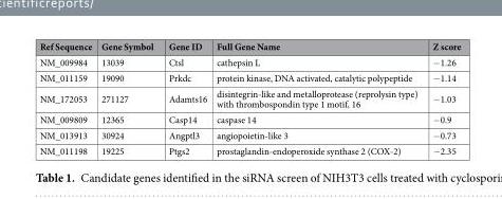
<table><thead><tr><td>Ref Sequence</td><td>Gene Symbol</td><td>Gene ID</td><td>Full Gene Name</td><td>Z score</td></tr></thead><tbody><tr><td>NM_009984</td><td>13039</td><td>Ctsl</td><td>cathepsin L</td><td>−1.26</td></tr><tr><td>NM_011159</td><td>19090</td><td>Prkdc</td><td>protein kinase, DNA activated, catalytic polypeptide</td><td>−1.14</td></tr><tr><td>NM_172053</td><td>271127</td><td>Adamts16</td><td>disintegrin-like and metalloprotease (reprolysin type) with thrombospondin type 1 motif, 16</td><td>−1.03</td></tr><tr><td>NM_009809</td><td>12365</td><td>Casp14</td><td>caspase 14</td><td>−0.9</td></tr><tr><td>NM_013913</td><td>30924</td><td>Angptl3</td><td>angiopoietin-like 3</td><td>−0.73</td></tr><tr><td>NM_011198</td><td>19225</td><td>Ptgs2</td><td>prostaglandin-endoperoxide synthase 2 (COX-2)</td><td>−2.35</td></tr></tbody></table>